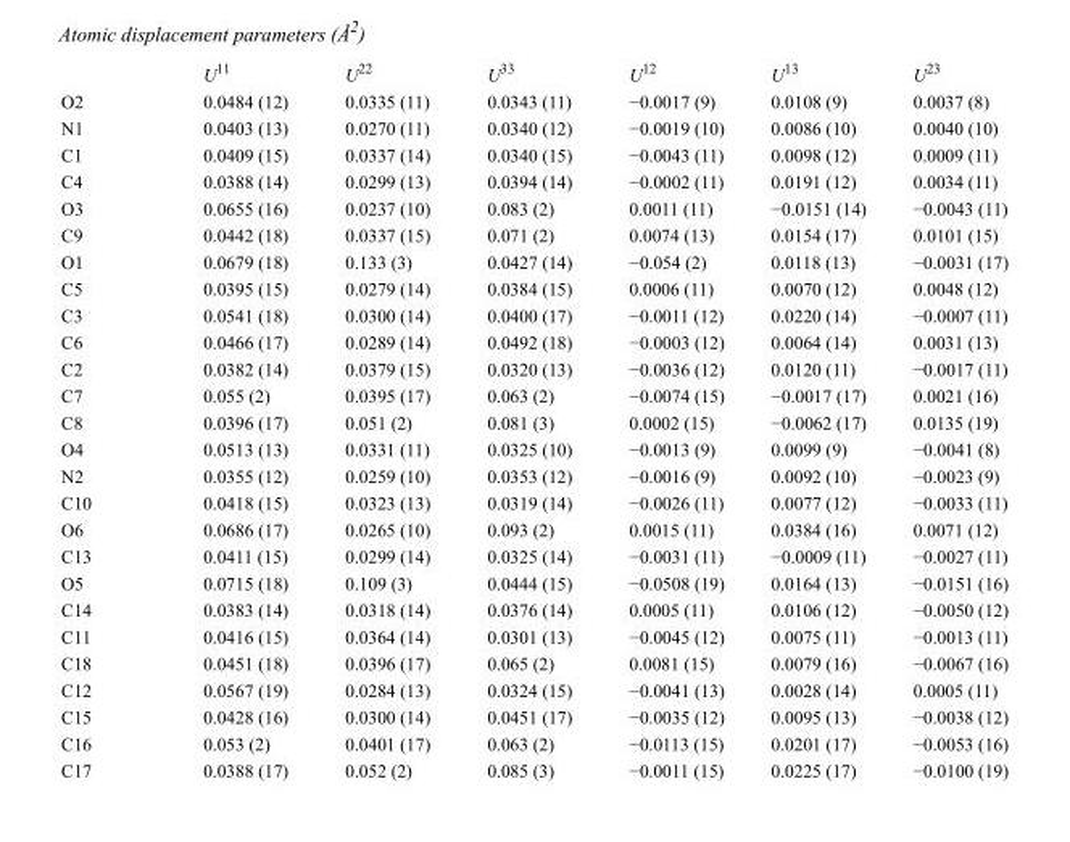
<table><thead><tr><td></td><td>U<sup>11</sup></td><td>U<sup>22</sup></td><td>U<sup>33</sup></td><td>U<sup>12</sup></td><td>U<sup>13</sup></td><td>U<sup>23</sup></td></tr></thead><tbody><tr><td>O2</td><td>0.0484 (12)</td><td>0.0335 (11)</td><td>0.0343 (11)</td><td>−0.0017 (9)</td><td>0.0108 (9)</td><td>0.0037 (8)</td></tr><tr><td>N1</td><td>0.0403 (13)</td><td>0.0270 (11)</td><td>0.0340 (12)</td><td>−0.0019 (10)</td><td>0.0086 (10)</td><td>0.0040 (10)</td></tr><tr><td>C1</td><td>0.0409 (15)</td><td>0.0337 (14)</td><td>0.0340 (15)</td><td>−0.0043 (11)</td><td>0.0098 (12)</td><td>0.0009 (11)</td></tr><tr><td>C4</td><td>0.0388 (14)</td><td>0.0299 (13)</td><td>0.0394 (14)</td><td>−0.0002 (11)</td><td>0.0191 (12)</td><td>0.0034 (11)</td></tr><tr><td>O3</td><td>0.0655 (16)</td><td>0.0237 (10)</td><td>0.083 (2)</td><td>0.0011 (11)</td><td>−0.0151 (14)</td><td>−0.0043 (11)</td></tr><tr><td>C9</td><td>0.0442 (18)</td><td>0.0337 (15)</td><td>0.071 (2)</td><td>0.0074 (13)</td><td>0.0154 (17)</td><td>0.0101 (15)</td></tr><tr><td>O1</td><td>0.0679 (18)</td><td>0.133 (3)</td><td>0.0427 (14)</td><td>−0.054 (2)</td><td>0.0118 (13)</td><td>−0.0031 (17)</td></tr><tr><td>C5</td><td>0.0395 (15)</td><td>0.0279 (14)</td><td>0.0384 (15)</td><td>0.0006 (11)</td><td>0.0070 (12)</td><td>0.0048 (12)</td></tr><tr><td>C3</td><td>0.0541 (18)</td><td>0.0300 (14)</td><td>0.0400 (17)</td><td>−0.0011 (12)</td><td>0.0220 (14)</td><td>−0.0007 (11)</td></tr><tr><td>C6</td><td>0.0466 (17)</td><td>0.0289 (14)</td><td>0.0492 (18)</td><td>−0.0003 (12)</td><td>0.0064 (14)</td><td>0.0031 (13)</td></tr><tr><td>C2</td><td>0.0382 (14)</td><td>0.0379 (15)</td><td>0.0320 (13)</td><td>−0.0036 (12)</td><td>0.0120 (11)</td><td>−0.0017 (11)</td></tr><tr><td>C7</td><td>0.055 (2)</td><td>0.0395 (17)</td><td>0.063 (2)</td><td>−0.0074 (15)</td><td>−0.0017 (17)</td><td>0.0021 (16)</td></tr><tr><td>C8</td><td>0.0396 (17)</td><td>0.051 (2)</td><td>0.081 (3)</td><td>0.0002 (15)</td><td>−0.0062 (17)</td><td>0.0135 (19)</td></tr><tr><td>O4</td><td>0.0513 (13)</td><td>0.0331 (11)</td><td>0.0325 (10)</td><td>−0.0013 (9)</td><td>0.0099 (9)</td><td>−0.0041 (8)</td></tr><tr><td>N2</td><td>0.0355 (12)</td><td>0.0259 (10)</td><td>0.0353 (12)</td><td>−0.0016 (9)</td><td>0.0092 (10)</td><td>−0.0023 (9)</td></tr><tr><td>C10</td><td>0.0418 (15)</td><td>0.0323 (13)</td><td>0.0319 (14)</td><td>−0.0026 (11)</td><td>0.0077 (12)</td><td>−0.0033 (11)</td></tr><tr><td>O6</td><td>0.0686 (17)</td><td>0.0265 (10)</td><td>0.093 (2)</td><td>0.0015 (11)</td><td>0.0384 (16)</td><td>0.0071 (12)</td></tr><tr><td>C13</td><td>0.0411 (15)</td><td>0.0299 (14)</td><td>0.0325 (14)</td><td>−0.0031 (11)</td><td>−0.0009 (11)</td><td>−0.0027 (11)</td></tr><tr><td>O5</td><td>0.0715 (18)</td><td>0.109 (3)</td><td>0.0444 (15)</td><td>−0.0508 (19)</td><td>0.0164 (13)</td><td>−0.0151 (16)</td></tr><tr><td>C14</td><td>0.0383 (14)</td><td>0.0318 (14)</td><td>0.0376 (14)</td><td>0.0005 (11)</td><td>0.0106 (12)</td><td>−0.0050 (12)</td></tr><tr><td>C11</td><td>0.0416 (15)</td><td>0.0364 (14)</td><td>0.0301 (13)</td><td>−0.0045 (12)</td><td>0.0075 (11)</td><td>−0.0013 (11)</td></tr><tr><td>C18</td><td>0.0451 (18)</td><td>0.0396 (17)</td><td>0.065 (2)</td><td>0.0081 (15)</td><td>0.0079 (16)</td><td>−0.0067 (16)</td></tr><tr><td>C12</td><td>0.0567 (19)</td><td>0.0284 (13)</td><td>0.0324 (15)</td><td>−0.0041 (13)</td><td>0.0028 (14)</td><td>0.0005 (11)</td></tr><tr><td>C15</td><td>0.0428 (16)</td><td>0.0300 (14)</td><td>0.0451 (17)</td><td>−0.0035 (12)</td><td>0.0095 (13)</td><td>−0.0038 (12)</td></tr><tr><td>C16</td><td>0.053 (2)</td><td>0.0401 (17)</td><td>0.063 (2)</td><td>−0.0113 (15)</td><td>0.0201 (17)</td><td>−0.0053 (16)</td></tr><tr><td>C17</td><td>0.0388 (17)</td><td>0.052 (2)</td><td>0.085 (3)</td><td>−0.0011 (15)</td><td>0.0225 (17)</td><td>−0.0100 (19)</td></tr></tbody></table>